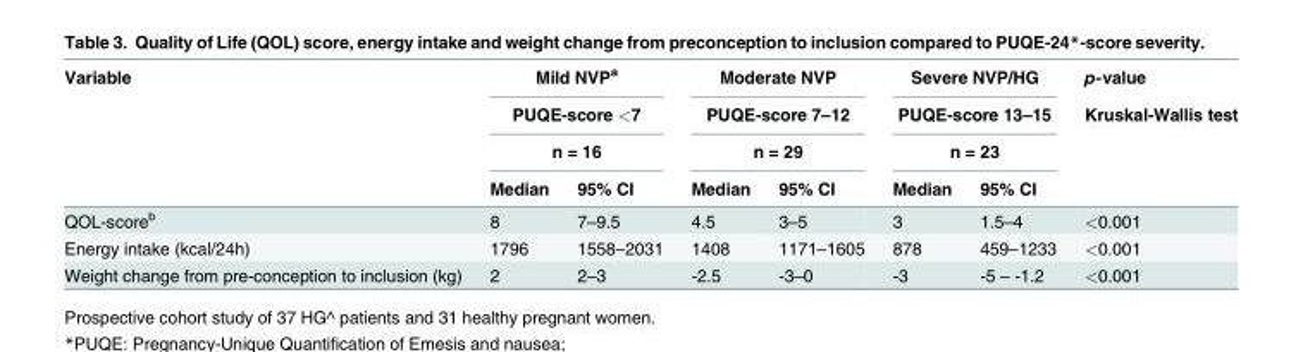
<table><thead><tr><td rowspan="4">Variable</td><td rowspan="3" colspan="2">Mild NVP<sup>a</sup> PUQE-score &lt;7 n = 16</td><td rowspan="3" colspan="2">Moderate NVP PUQE-score 7–12 n = 29</td><td rowspan="3" colspan="2">Severe NVP/HG PUQE-score 13–15 n = 23</td><td rowspan="4">p-value Kruskal-Wallis test</td></tr><tr></tr><tr></tr><tr><td>Median</td><td>95% CI</td><td>Median</td><td>95% CI</td><td>Median</td><td>95% CI</td></tr></thead><tbody><tr><td>QOL-score<sup>b</sup></td><td>8</td><td>7–9.5</td><td>4.5</td><td>3–5</td><td>3</td><td>1.5–4</td><td>&lt;0.001</td></tr><tr><td>Energy intake (kcal/24h)</td><td>1796</td><td>1558–2031</td><td>1408</td><td>1171–1605</td><td>878</td><td>459–1233</td><td>&lt;0.001</td></tr><tr><td>Weight change from pre-conception to inclusion (kg)</td><td>2</td><td>2–3</td><td>-2.5</td><td>-3–0</td><td>-3</td><td>-5 – -1.2</td><td>&lt;0.001</td></tr></tbody></table>